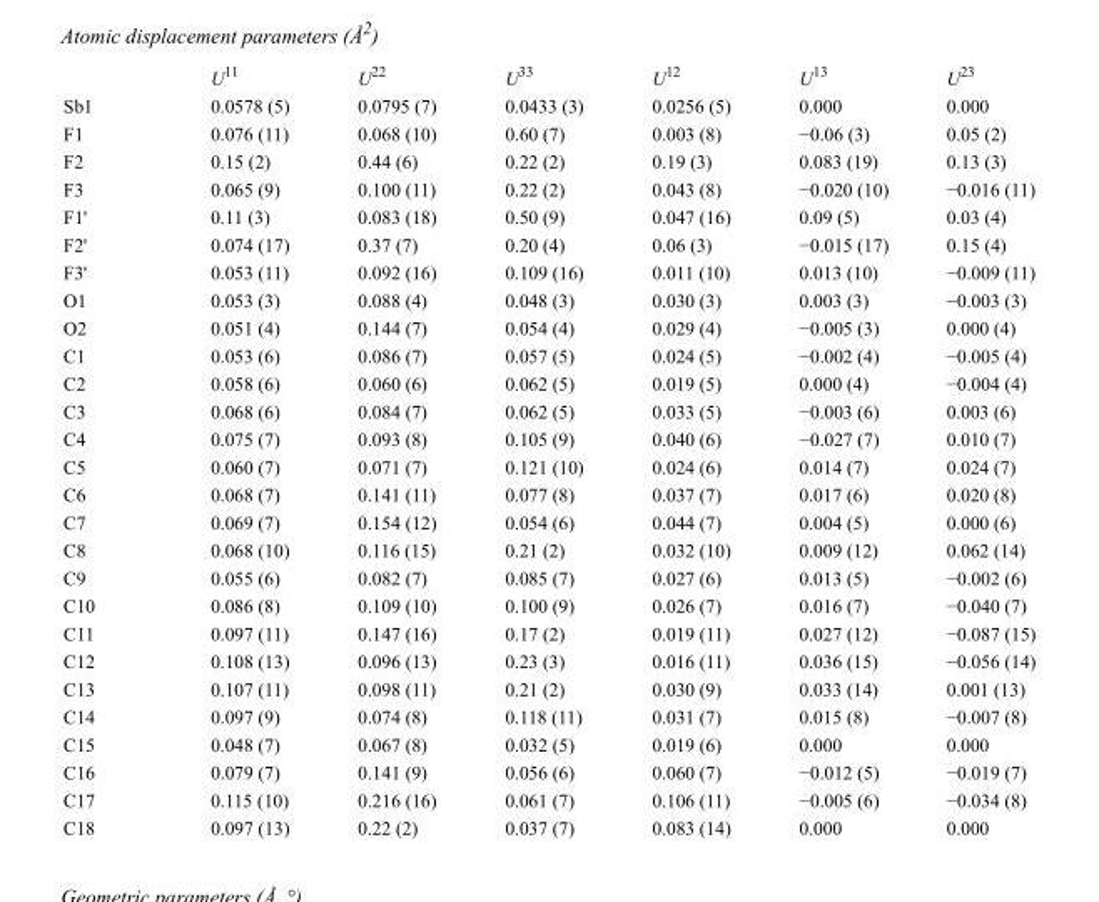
<table><thead><tr><td></td><td>U<sup>11</sup></td><td>U<sup>22</sup></td><td>U<sup>33</sup></td><td>U<sup>12</sup></td><td>U<sup>13</sup></td><td>U<sup>23</sup></td></tr></thead><tbody><tr><td>Sb1</td><td>0.0578 (5)</td><td>0.0795 (7)</td><td>0.0433 (3)</td><td>0.0256 (5)</td><td>0.000</td><td>0.000</td></tr><tr><td>F1</td><td>0.076 (11)</td><td>0.068 (10)</td><td>0.60 (7)</td><td>0.003 (8)</td><td>−0.06 (3)</td><td>0.05 (2)</td></tr><tr><td>F2</td><td>0.15 (2)</td><td>0.44 (6)</td><td>0.22 (2)</td><td>0.19 (3)</td><td>0.083 (19)</td><td>0.13 (3)</td></tr><tr><td>F3</td><td>0.065 (9)</td><td>0.100 (11)</td><td>0.22 (2)</td><td>0.043 (8)</td><td>−0.020 (10)</td><td>−0.016 (11)</td></tr><tr><td>F1&#x27;</td><td>0.11 (3)</td><td>0.083 (18)</td><td>0.50 (9)</td><td>0.047 (16)</td><td>0.09 (5)</td><td>0.03 (4)</td></tr><tr><td>F2&#x27;</td><td>0.074 (17)</td><td>0.37 (7)</td><td>0.20 (4)</td><td>0.06 (3)</td><td>−0.015 (17)</td><td>0.15 (4)</td></tr><tr><td>F3&#x27;</td><td>0.053 (11)</td><td>0.092 (16)</td><td>0.109 (16)</td><td>0.011 (10)</td><td>0.013 (10)</td><td>−0.009 (11)</td></tr><tr><td>O1</td><td>0.053 (3)</td><td>0.088 (4)</td><td>0.048 (3)</td><td>0.030 (3)</td><td>0.003 (3)</td><td>−0.003 (3)</td></tr><tr><td>O2</td><td>0.051 (4)</td><td>0.144 (7)</td><td>0.054 (4)</td><td>0.029 (4)</td><td>−0.005 (3)</td><td>0.000 (4)</td></tr><tr><td>C1</td><td>0.053 (6)</td><td>0.086 (7)</td><td>0.057 (5)</td><td>0.024 (5)</td><td>−0.002 (4)</td><td>−0.005 (4)</td></tr><tr><td>C2</td><td>0.058 (6)</td><td>0.060 (6)</td><td>0.062 (5)</td><td>0.019 (5)</td><td>0.000 (4)</td><td>−0.004 (4)</td></tr><tr><td>C3</td><td>0.068 (6)</td><td>0.084 (7)</td><td>0.062 (5)</td><td>0.033 (5)</td><td>−0.003 (6)</td><td>0.003 (6)</td></tr><tr><td>C4</td><td>0.075 (7)</td><td>0.093 (8)</td><td>0.105 (9)</td><td>0.040 (6)</td><td>−0.027 (7)</td><td>0.010 (7)</td></tr><tr><td>C5</td><td>0.060 (7)</td><td>0.071 (7)</td><td>0.121 (10)</td><td>0.024 (6)</td><td>0.014 (7)</td><td>0.024 (7)</td></tr><tr><td>C6</td><td>0.068 (7)</td><td>0.141 (11)</td><td>0.077 (8)</td><td>0.037 (7)</td><td>0.017 (6)</td><td>0.020 (8)</td></tr><tr><td>C7</td><td>0.069 (7)</td><td>0.154 (12)</td><td>0.054 (6)</td><td>0.044 (7)</td><td>0.004 (5)</td><td>0.000 (6)</td></tr><tr><td>C8</td><td>0.068 (10)</td><td>0.116 (15)</td><td>0.21 (2)</td><td>0.032 (10)</td><td>0.009 (12)</td><td>0.062 (14)</td></tr><tr><td>C9</td><td>0.055 (6)</td><td>0.082 (7)</td><td>0.085 (7)</td><td>0.027 (6)</td><td>0.013 (5)</td><td>−0.002 (6)</td></tr><tr><td>C10</td><td>0.086 (8)</td><td>0.109 (10)</td><td>0.100 (9)</td><td>0.026 (7)</td><td>0.016 (7)</td><td>−0.040 (7)</td></tr><tr><td>C11</td><td>0.097 (11)</td><td>0.147 (16)</td><td>0.17 (2)</td><td>0.019 (11)</td><td>0.027 (12)</td><td>−0.087 (15)</td></tr><tr><td>C12</td><td>0.108 (13)</td><td>0.096 (13)</td><td>0.23 (3)</td><td>0.016 (11)</td><td>0.036 (15)</td><td>−0.056 (14)</td></tr><tr><td>C13</td><td>0.107 (11)</td><td>0.098 (11)</td><td>0.21 (2)</td><td>0.030 (9)</td><td>0.033 (14)</td><td>0.001 (13)</td></tr><tr><td>C14</td><td>0.097 (9)</td><td>0.074 (8)</td><td>0.118 (11)</td><td>0.031 (7)</td><td>0.015 (8)</td><td>−0.007 (8)</td></tr><tr><td>C15</td><td>0.048 (7)</td><td>0.067 (8)</td><td>0.032 (5)</td><td>0.019 (6)</td><td>0.000</td><td>0.000</td></tr><tr><td>C16</td><td>0.079 (7)</td><td>0.141 (9)</td><td>0.056 (6)</td><td>0.060 (7)</td><td>−0.012 (5)</td><td>−0.019 (7)</td></tr><tr><td>C17</td><td>0.115 (10)</td><td>0.216 (16)</td><td>0.061 (7)</td><td>0.106 (11)</td><td>−0.005 (6)</td><td>−0.034 (8)</td></tr><tr><td>C18</td><td>0.097 (13)</td><td>0.22 (2)</td><td>0.037 (7)</td><td>0.083 (14)</td><td>0.000</td><td>0.000</td></tr></tbody></table>